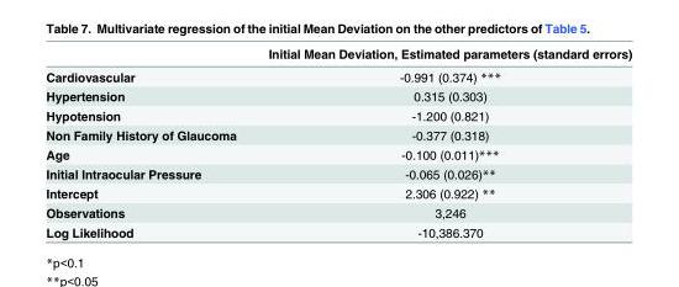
<table><thead><tr><td></td><td>Initial Mean Deviation, Estimated parameters (standard errors)</td></tr></thead><tbody><tr><td>Cardiovascular</td><td>-0.991 (0.374) ***</td></tr><tr><td>Hypertension</td><td>0.315 (0.303)</td></tr><tr><td>Hypotension</td><td>-1.200 (0.821)</td></tr><tr><td>Non Family History of Glaucoma</td><td>-0.377 (0.318)</td></tr><tr><td>Age</td><td>-0.100 (0.011)***</td></tr><tr><td>Initial Intraocular Pressure</td><td>-0.065 (0.026)**</td></tr><tr><td>Intercept</td><td>2.306 (0.922) **</td></tr><tr><td>Observations</td><td>3,246</td></tr><tr><td>Log Likelihood</td><td>-10,386.370</td></tr></tbody></table>